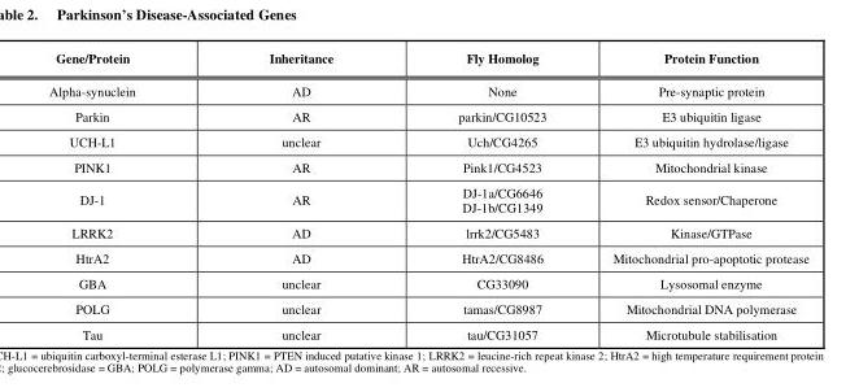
<table><thead><tr><td>Gene/Protein</td><td>Inheritance</td><td>Fly Homolog</td><td>Protein Function</td></tr></thead><tbody><tr><td>Alpha-synuclein</td><td>AD</td><td>None</td><td>Pre-synaptic protein</td></tr><tr><td>Parkin</td><td>AR</td><td>parkin/CG10523</td><td>E3 ubiquitin ligase</td></tr><tr><td>UCH-L1</td><td>unclear</td><td>Uch/CG4265</td><td>E3 ubiquitin hydrolase/ligase</td></tr><tr><td>PINK1</td><td>AR</td><td>Pink1/CG4523</td><td>Mitochondrial kinase</td></tr><tr><td>DJ-1</td><td>AR</td><td>DJ-1a/CG6646 DJ-1b/CG1349</td><td>Redox sensor/Chaperone</td></tr><tr><td>LRRK2</td><td>AD</td><td>lrrk2/CG5483</td><td>Kinase/GTPase</td></tr><tr><td>HtrA2</td><td>AD</td><td>HtrA2/CG8486</td><td>Mitochondrial pro-apoptotic protease</td></tr><tr><td>GBA</td><td>unclear</td><td>CG33090</td><td>Lysosomal enzyme</td></tr><tr><td>POLG</td><td>unclear</td><td>tamas/CG8987</td><td>Mitochondrial DNA polymerase</td></tr><tr><td>Tau</td><td>unclear</td><td>tau/CG31057</td><td>Microtubule stabilisation</td></tr></tbody></table>